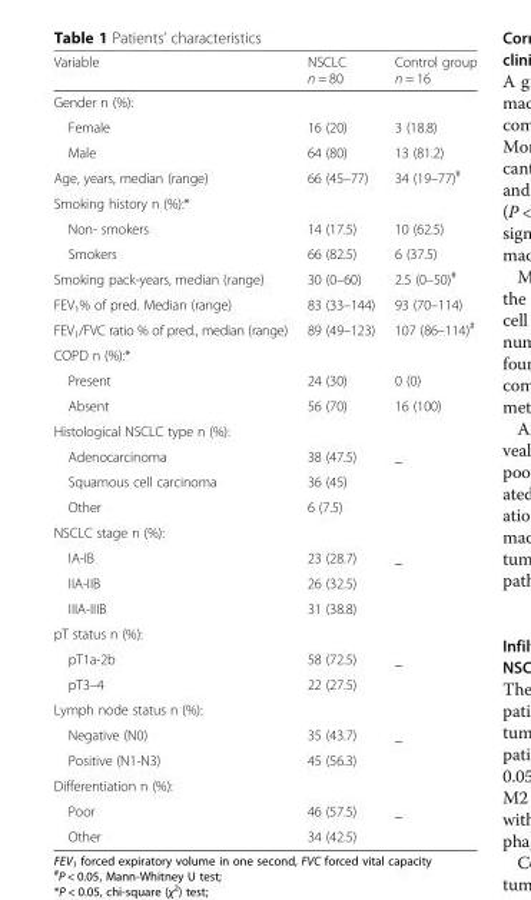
<table><thead><tr><td>Variable</td><td>NSCLC n = 80</td><td>Control group n = 16</td></tr></thead><tbody><tr><td colspan="3">Gender n (%):</td></tr><tr><td>Female</td><td>16 (20)</td><td>3 (18.8)</td></tr><tr><td>Male</td><td>64 (80)</td><td>13 (81.2)</td></tr><tr><td>Age, years, median (range)</td><td>66 (45–77)</td><td>34 (19–77)<sup>#</sup></td></tr><tr><td colspan="3">Smoking history n (%):*</td></tr><tr><td>Non- smokers</td><td>14 (17.5)</td><td>10 (62.5)</td></tr><tr><td>Smokers</td><td>66 (82.5)</td><td>6 (37.5)</td></tr><tr><td>Smoking pack-years, median (range)</td><td>30 (0–60)</td><td>2.5 (0–50)<sup>#</sup></td></tr><tr><td>FEV<sub>1</sub>% of pred. Median (range)</td><td>83 (33–144)</td><td>93 (70–114)</td></tr><tr><td>FEV<sub>1</sub>/FVC ratio % of pred., median (range)</td><td>89 (49–123)</td><td>107 (86–114)<sup>#</sup></td></tr><tr><td colspan="3">COPD n (%):*</td></tr><tr><td>Present</td><td>24 (30)</td><td>0 (0)</td></tr><tr><td>Absent</td><td>56 (70)</td><td>16 (100)</td></tr><tr><td colspan="3">Histological NSCLC type n (%):</td></tr><tr><td>Adenocarcinoma</td><td>38 (47.5)</td><td rowspan="3">_</td></tr><tr><td>Squamous cell carcinoma</td><td>36 (45)</td></tr><tr><td>Other</td><td>6 (7.5)</td></tr><tr><td colspan="3">NSCLC stage n (%):</td></tr><tr><td>IA-IB</td><td>23 (28.7)</td><td rowspan="3">_</td></tr><tr><td>IIA-IIB</td><td>26 (32.5)</td></tr><tr><td>IIIA-IIIB</td><td>31 (38.8)</td></tr><tr><td colspan="3">pT status n (%):</td></tr><tr><td>pT1a-2b</td><td>58 (72.5)</td><td rowspan="2">_</td></tr><tr><td>pT3–4</td><td>22 (27.5)</td></tr><tr><td colspan="3">Lymph node status n (%):</td></tr><tr><td>Negative (N0)</td><td>35 (43.7)</td><td rowspan="2">_</td></tr><tr><td>Positive (N1-N3)</td><td>45 (56.3)</td></tr><tr><td colspan="3">Differentiation n (%):</td></tr><tr><td>Poor</td><td>46 (57.5)</td><td rowspan="2">_</td></tr><tr><td>Other</td><td>34 (42.5)</td></tr></tbody></table>